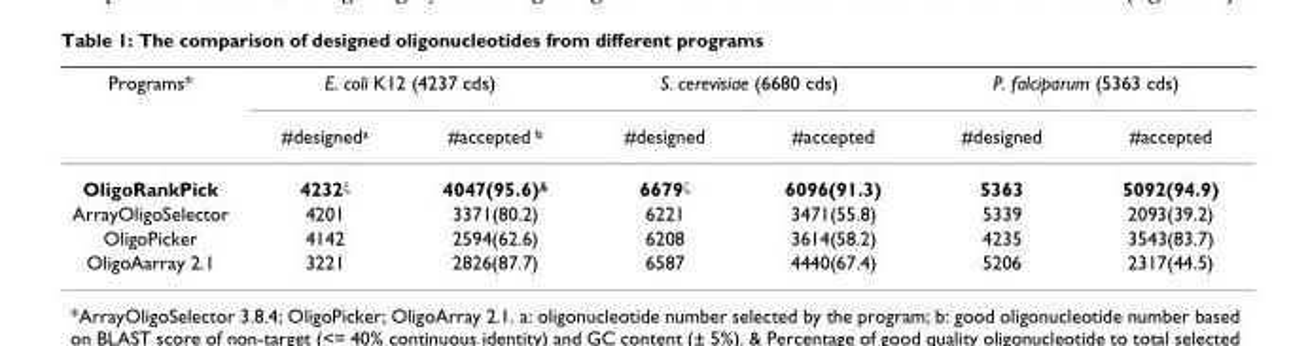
<table><thead><tr><td rowspan="2">Programs*</td><td colspan="2">E. coli K12 (4237 cds)</td><td colspan="2">S. cerevisiae (6680 cds)</td><td colspan="2">P. falciparum (5363 cds)</td></tr><tr><td>#designed<sup>a</sup></td><td>#accepted <sup>b</sup></td><td>#designed</td><td>#accepted</td><td>#designed</td><td>#accepted</td></tr></thead><tbody><tr><td>OligoRankPick</td><td>4232<sup>ξ</sup></td><td>4047(95.6)<sup>&amp;</sup></td><td>6679<sup>ζ</sup></td><td>6096(91.3)</td><td>5363</td><td>5092(94.9)</td></tr><tr><td>ArrayOligoSelector</td><td>4201</td><td>3371(80.2)</td><td>6221</td><td>3471(55.8)</td><td>5339</td><td>2093(39.2)</td></tr><tr><td>OligoPicker</td><td>4142</td><td>2594(62.6)</td><td>6208</td><td>3614(58.2)</td><td>4235</td><td>3543(83.7)</td></tr><tr><td>OligoAarray 2.1</td><td>3221</td><td>2826(87.7)</td><td>6587</td><td>4440(67.4)</td><td>5206</td><td>2317(44.5)</td></tr></tbody></table>